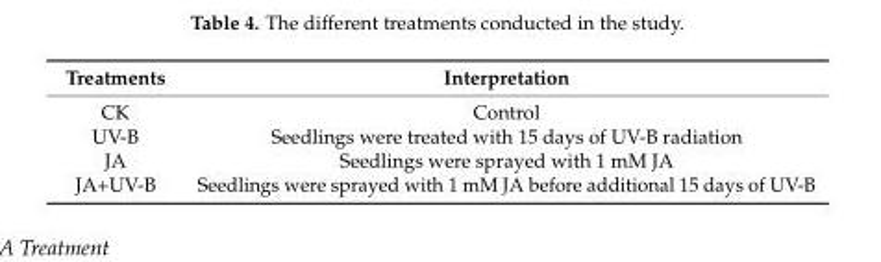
<table><thead><tr><td>Treatments</td><td>Interpretation</td></tr></thead><tbody><tr><td>CK</td><td>Control</td></tr><tr><td>UV-B</td><td>Seedlings were treated with 15 days of UV-B radiation</td></tr><tr><td>JA</td><td>Seedlings were sprayed with 1 mM JA</td></tr><tr><td>JA+UV-B</td><td>Seedlings were sprayed with 1 mM JA before additional 15 days of UV-B</td></tr></tbody></table>